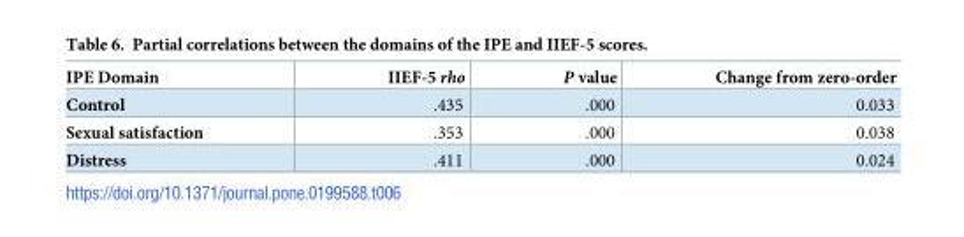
<table><thead><tr><td>IPE Domain</td><td>IIEF-5 rho</td><td>P value</td><td>Change from zero-order</td></tr></thead><tbody><tr><td>Control</td><td>.435</td><td>.000</td><td>0.033</td></tr><tr><td>Sexual satisfaction</td><td>.353</td><td>.000</td><td>0.038</td></tr><tr><td>Distress</td><td>.411</td><td>.000</td><td>0.024</td></tr></tbody></table>